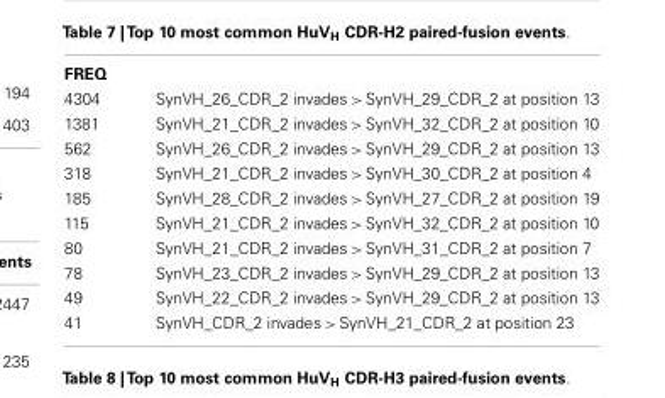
<table><tbody><tr><td colspan="2">FREQ</td></tr><tr><td>4304</td><td>SynVH_26_CDR_2 invades &gt; SynVH_29_CDR_2 at position 13</td></tr><tr><td>1381</td><td>SynVH_21_CDR_2 invades &gt; SynVH_32_CDR_2 at position 10</td></tr><tr><td>562</td><td>SynVH_26_CDR_2 invades &gt; SynVH_29_CDR_2 at position 13</td></tr><tr><td>318</td><td>SynVH_21_CDR_2 invades &gt; SynVH_30_CDR_2 at position 4</td></tr><tr><td>185</td><td>SynVH_28_CDR_2 invades &gt; SynVH_27_CDR_2 at position 19</td></tr><tr><td>115</td><td>SynVH_21_CDR_2 invades &gt; SynVH_32_CDR_2 at position 10</td></tr><tr><td>80</td><td>SynVH_21_CDR_2 invades &gt; SynVH_31_CDR_2 at position 7</td></tr><tr><td>78</td><td>SynVH_23_CDR_2 invades &gt; SynVH_29_CDR_2 at position 13</td></tr><tr><td>49</td><td>SynVH_22_CDR_2 invades &gt; SynVH_29_CDR_2 at position 13</td></tr><tr><td>41</td><td>SynVH_CDR_2 invades &gt; SynVH_21_CDR_2 at position 23</td></tr></tbody></table>